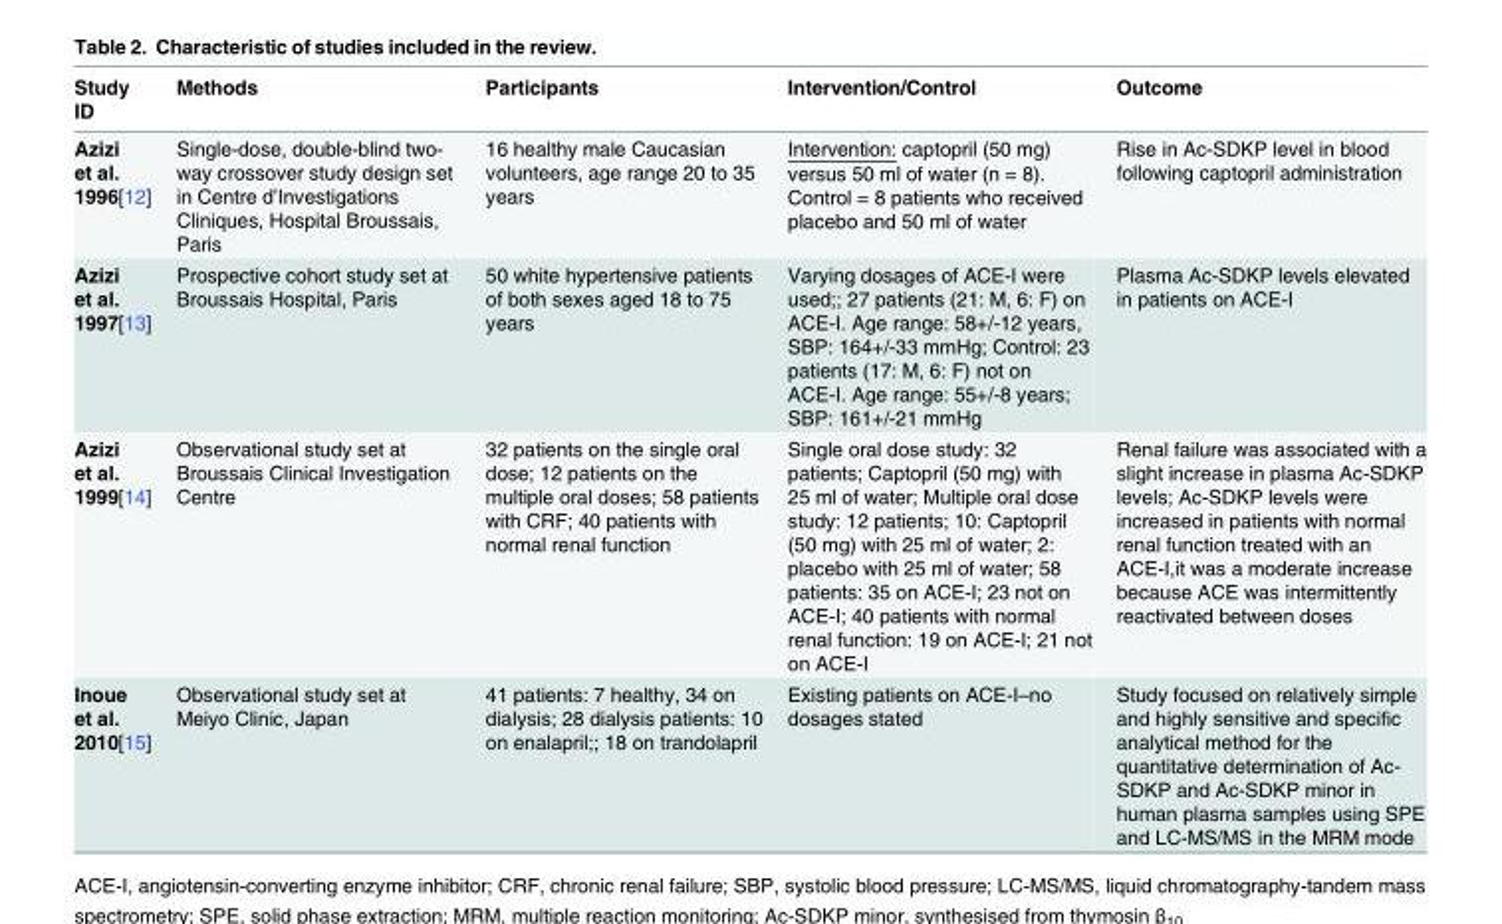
<table><thead><tr><td>Study ID</td><td>Methods</td><td>Participants</td><td>Intervention/Control</td><td>Outcome</td></tr></thead><tbody><tr><td>Azizi et al. 1996[12]</td><td>Single-dose, double-blind two- way crossover study design set in Centre d’Investigations Cliniques, Hospital Broussais, Paris</td><td>16 healthy male Caucasian volunteers, age range 20 to 35 years</td><td>Intervention: captopril (50 mg) versus 50 ml of water (n = 8). Control = 8 patients who received placebo and 50 ml of water</td><td>Rise in Ac-SDKP level in blood following captopril administration</td></tr><tr><td>Azizi et al. 1997[13]</td><td>Prospective cohort study set at Broussais Hospital, Paris</td><td>50 white hypertensive patients of both sexes aged 18 to 75 years</td><td>Varying dosages of ACE-I were used;; 27 patients (21: M, 6: F) on ACE-I. Age range: 58+/-12 years, SBP: 164+/-33 mmHg; Control: 23 patients (17: M, 6: F) not on ACE-I. Age range: 55+/-8 years; SBP: 161+/-21 mmHg</td><td>Plasma Ac-SDKP levels elevated in patients on ACE-I</td></tr><tr><td>Azizi et al. 1999[14]</td><td>Observational study set at Broussais Clinical Investigation Centre</td><td>32 patients on the single oral dose; 12 patients on the multiple oral doses; 58 patients with CRF; 40 patients with normal renal function</td><td>Single oral dose study: 32 patients; Captopril (50 mg) with 25 ml of water; Multiple oral dose study: 12 patients; 10: Captopril (50 mg) with 25 ml of water; 2: placebo with 25 ml of water; 58 patients: 35 on ACE-I; 23 not on ACE-I; 40 patients with normal renal function: 19 on ACE-I; 21 not on ACE-I</td><td>Renal failure was associated with a slight increase in plasma Ac-SDKP levels; Ac-SDKP levels were increased in patients with normal renal function treated with an ACE-I,it was a moderate increase because ACE was intermittently reactivated between doses</td></tr><tr><td>Inoue et al. 2010[15]</td><td>Observational study set at Meiyo Clinic, Japan</td><td>41 patients: 7 healthy, 34 on dialysis; 28 dialysis patients: 10 on enalapril;; 18 on trandolapril</td><td>Existing patients on ACE-I–no dosages stated</td><td>Study focused on relatively simple and highly sensitive and specific analytical method for the quantitative determination of Ac- SDKP and Ac-SDKP minor in human plasma samples using SPE and LC-MS/MS in the MRM mode</td></tr></tbody></table>